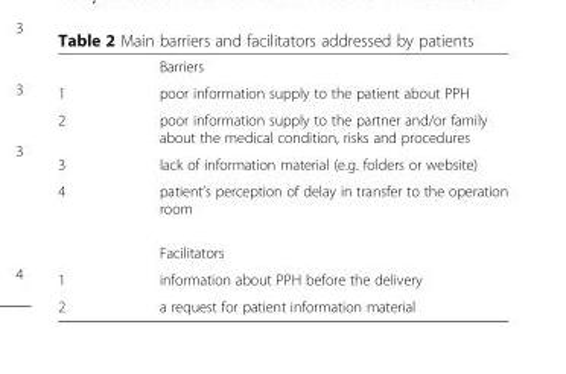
<table><thead><tr><td></td><td>Barriers</td></tr></thead><tbody><tr><td>1</td><td>poor information supply to the patient about PPH</td></tr><tr><td>2</td><td>poor information supply to the partner and/or family about the medical condition, risks and procedures</td></tr><tr><td>3</td><td>lack of information material (e.g. folders or website)</td></tr><tr><td rowspan="2">4</td><td>patient’s perception of delay in transfer to the operation room</td></tr><tr><td>Facilitators</td></tr><tr><td>1</td><td>information about PPH before the delivery</td></tr><tr><td>2</td><td>a request for patient information material</td></tr></tbody></table>